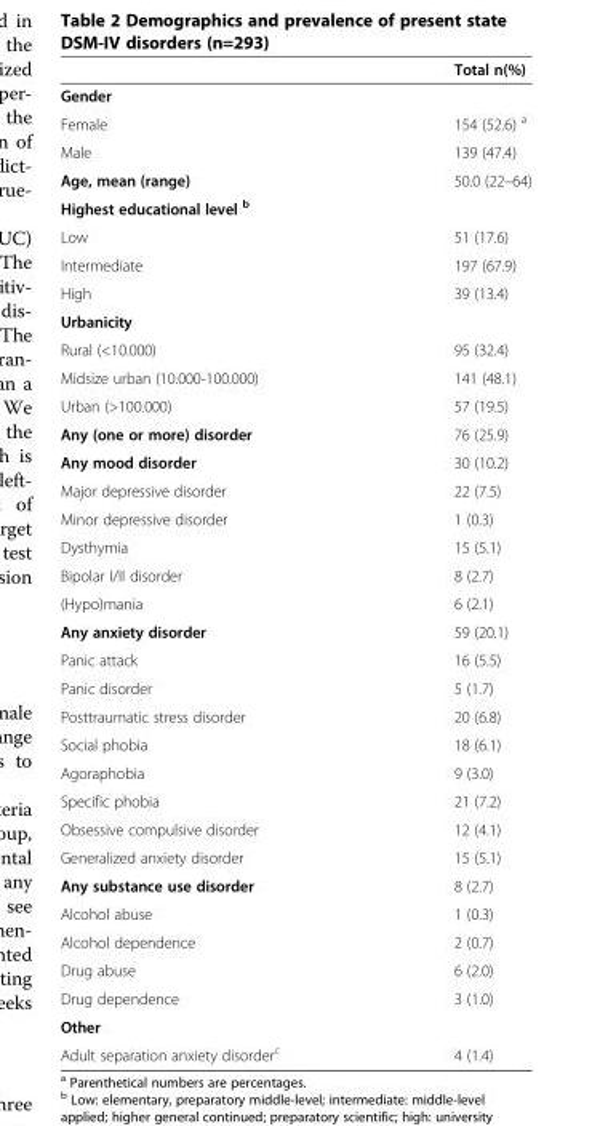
<table><thead><tr><td></td><td>Total n(%)</td></tr></thead><tbody><tr><td colspan="2">Gender</td></tr><tr><td>Female</td><td>154 (52.6) <sup>a</sup></td></tr><tr><td>Male</td><td>139 (47.4)</td></tr><tr><td>Age, mean (range)</td><td>50.0 (22–64)</td></tr><tr><td colspan="2">Highest educational level <sup>b</sup></td></tr><tr><td>Low</td><td>51 (17.6)</td></tr><tr><td>Intermediate</td><td>197 (67.9)</td></tr><tr><td>High</td><td>39 (13.4)</td></tr><tr><td colspan="2">Urbanicity</td></tr><tr><td>Rural (&lt;10.000)</td><td>95 (32.4)</td></tr><tr><td>Midsize urban (10.000-100.000)</td><td>141 (48.1)</td></tr><tr><td>Urban (&gt;100.000)</td><td>57 (19.5)</td></tr><tr><td>Any (one or more) disorder</td><td>76 (25.9)</td></tr><tr><td>Any mood disorder</td><td>30 (10.2)</td></tr><tr><td>Major depressive disorder</td><td>22 (7.5)</td></tr><tr><td>Minor depressive disorder</td><td>1 (0.3)</td></tr><tr><td>Dysthymia</td><td>15 (5.1)</td></tr><tr><td>Bipolar I/II disorder</td><td>8 (2.7)</td></tr><tr><td>(Hypo)mania</td><td>6 (2.1)</td></tr><tr><td>Any anxiety disorder</td><td>59 (20.1)</td></tr><tr><td>Panic attack</td><td>16 (5.5)</td></tr><tr><td>Panic disorder</td><td>5 (1.7)</td></tr><tr><td>Posttraumatic stress disorder</td><td>20 (6.8)</td></tr><tr><td>Social phobia</td><td>18 (6.1)</td></tr><tr><td>Agoraphobia</td><td>9 (3.0)</td></tr><tr><td>Specific phobia</td><td>21 (7.2)</td></tr><tr><td>Obsessive compulsive disorder</td><td>12 (4.1)</td></tr><tr><td>Generalized anxiety disorder</td><td>15 (5.1)</td></tr><tr><td>Any substance use disorder</td><td>8 (2.7)</td></tr><tr><td>Alcohol abuse</td><td>1 (0.3)</td></tr><tr><td>Alcohol dependence</td><td>2 (0.7)</td></tr><tr><td>Drug abuse</td><td>6 (2.0)</td></tr><tr><td>Drug dependence</td><td>3 (1.0)</td></tr><tr><td colspan="2">Other</td></tr><tr><td>Adult separation anxiety disorder<sup>c</sup></td><td>4 (1.4)</td></tr></tbody></table>